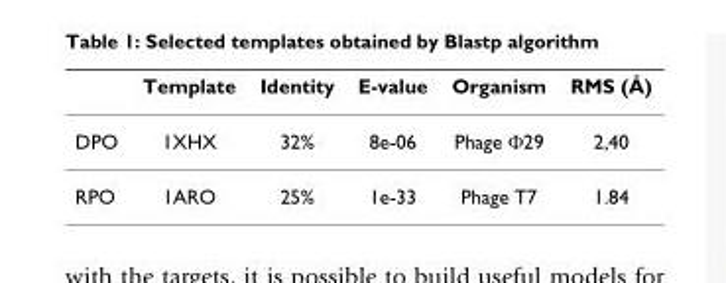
<table><thead><tr><td></td><td>Template</td><td>Identity</td><td>E-value</td><td>Organism</td><td>RMS (Å)</td></tr></thead><tbody><tr><td>DPO</td><td>1XHX</td><td>32%</td><td>8e-06</td><td>Phage Φ29</td><td>2,40</td></tr><tr><td>RPO</td><td>1ARO</td><td>25%</td><td>1e-33</td><td>Phage T7</td><td>1.84</td></tr></tbody></table>